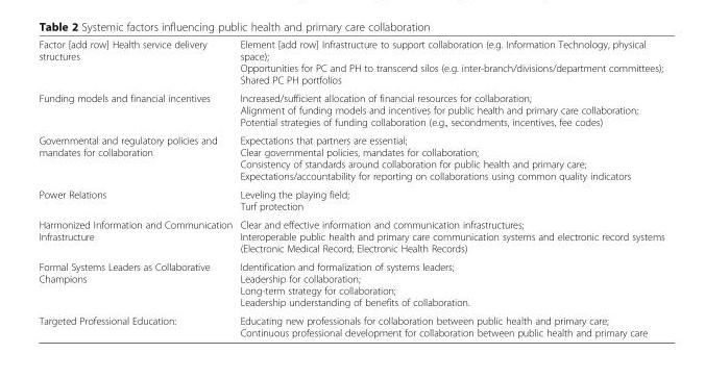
<table><tbody><tr><td>Factor [add row] Health service delivery structures</td><td>Element [add row] Infrastructure to support collaboration (e.g. Information Technology, physical space); Opportunities for PC and PH to transcend silos (e.g. inter-branch/divisions/department committees); Shared PC PH portfolios</td></tr><tr><td>Funding models and financial incentives</td><td>Increased/sufficient allocation of financial resources for collaboration; Alignment of funding models and incentives for public health and primary care collaboration; Potential strategies of funding collaboration (e.g., secondments, incentives, fee codes)</td></tr><tr><td>Governmental and regulatory policies and mandates for collaboration</td><td>Expectations that partners are essential; Clear governmental policies, mandates for collaboration; Consistency of standards around collaboration for public health and primary care; Expectations/accountability for reporting on collaborations using common quality indicators</td></tr><tr><td>Power Relations</td><td>Leveling the playing field; Turf protection</td></tr><tr><td>Harmonized Information and Communication Infrastructure</td><td>Clear and effective information and communication infrastructures; Interoperable public health and primary care communication systems and electronic record systems (Electronic Medical Record; Electronic Health Records)</td></tr><tr><td>Formal Systems Leaders as Collaborative Champions</td><td>Identification and formalization of systems leaders; Leadership for collaboration; Long-term strategy for collaboration; Leadership understanding of benefits of collaboration.</td></tr><tr><td>Targeted Professional Education:</td><td>Educating new professionals for collaboration between public health and primary care; Continuous professional development for collaboration between public health and primary care</td></tr></tbody></table>